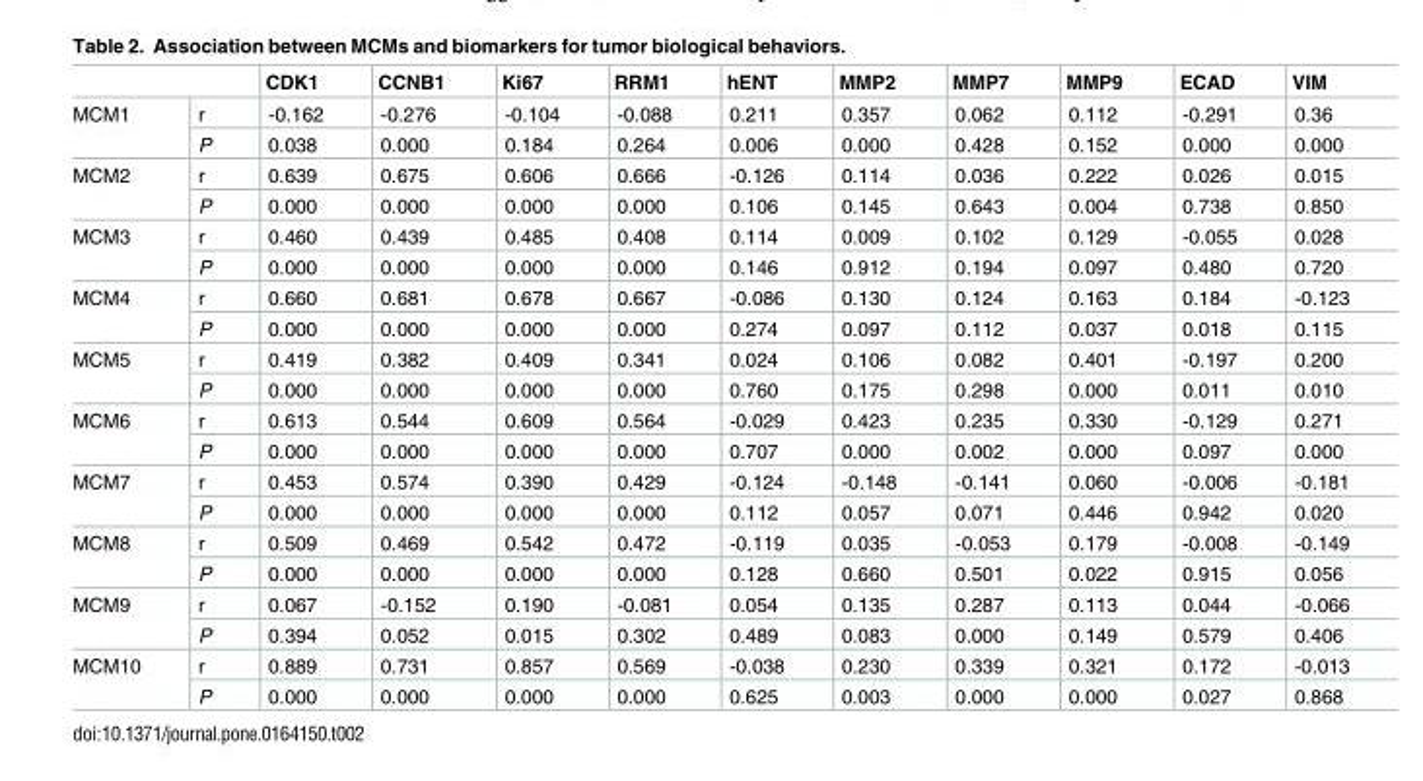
<table><thead><tr><td></td><td></td><td>CDK1</td><td>CCNB1</td><td>Ki67</td><td>RRM1</td><td>hENT</td><td>MMP2</td><td>MMP7</td><td>MMP9</td><td>ECAD</td><td>VIM</td></tr></thead><tbody><tr><td rowspan="2">MCM1</td><td>r</td><td>-0.162</td><td>-0.276</td><td>-0.104</td><td>-0.088</td><td>0.211</td><td>0.357</td><td>0.062</td><td>0.112</td><td>-0.291</td><td>0.36</td></tr><tr><td>P</td><td>0.038</td><td>0.000</td><td>0.184</td><td>0.264</td><td>0.006</td><td>0.000</td><td>0.428</td><td>0.152</td><td>0.000</td><td>0.000</td></tr><tr><td rowspan="2">MCM2</td><td>r</td><td>0.639</td><td>0.675</td><td>0.606</td><td>0.666</td><td>-0.126</td><td>0.114</td><td>0.036</td><td>0.222</td><td>0.026</td><td>0.015</td></tr><tr><td>P</td><td>0.000</td><td>0.000</td><td>0.000</td><td>0.000</td><td>0.106</td><td>0.145</td><td>0.643</td><td>0.004</td><td>0.738</td><td>0.850</td></tr><tr><td rowspan="2">MCM3</td><td>r</td><td>0.460</td><td>0.439</td><td>0.485</td><td>0.408</td><td>0.114</td><td>0.009</td><td>0.102</td><td>0.129</td><td>-0.055</td><td>0.028</td></tr><tr><td>P</td><td>0.000</td><td>0.000</td><td>0.000</td><td>0.000</td><td>0.146</td><td>0.912</td><td>0.194</td><td>0.097</td><td>0.480</td><td>0.720</td></tr><tr><td rowspan="2">MCM4</td><td>r</td><td>0.660</td><td>0.681</td><td>0.678</td><td>0.667</td><td>-0.086</td><td>0.130</td><td>0.124</td><td>0.163</td><td>0.184</td><td>-0.123</td></tr><tr><td>P</td><td>0.000</td><td>0.000</td><td>0.000</td><td>0.000</td><td>0.274</td><td>0.097</td><td>0.112</td><td>0.037</td><td>0.018</td><td>0.115</td></tr><tr><td rowspan="2">MCM5</td><td>r</td><td>0.419</td><td>0.382</td><td>0.409</td><td>0.341</td><td>0.024</td><td>0.106</td><td>0.082</td><td>0.401</td><td>-0.197</td><td>0.200</td></tr><tr><td>P</td><td>0.000</td><td>0.000</td><td>0.000</td><td>0.000</td><td>0.760</td><td>0.175</td><td>0.298</td><td>0.000</td><td>0.011</td><td>0.010</td></tr><tr><td rowspan="2">MCM6</td><td>r</td><td>0.613</td><td>0.544</td><td>0.609</td><td>0.564</td><td>-0.029</td><td>0.423</td><td>0.235</td><td>0.330</td><td>-0.129</td><td>0.271</td></tr><tr><td>P</td><td>0.000</td><td>0.000</td><td>0.000</td><td>0.000</td><td>0.707</td><td>0.000</td><td>0.002</td><td>0.000</td><td>0.097</td><td>0.000</td></tr><tr><td rowspan="2">MCM7</td><td>r</td><td>0.453</td><td>0.574</td><td>0.390</td><td>0.429</td><td>-0.124</td><td>-0.148</td><td>-0.141</td><td>0.060</td><td>-0.006</td><td>-0.181</td></tr><tr><td>P</td><td>0.000</td><td>0.000</td><td>0.000</td><td>0.000</td><td>0.112</td><td>0.057</td><td>0.071</td><td>0.446</td><td>0.942</td><td>0.020</td></tr><tr><td rowspan="2">MCM8</td><td>r</td><td>0.509</td><td>0.469</td><td>0.542</td><td>0.472</td><td>-0.119</td><td>0.035</td><td>-0.053</td><td>0.179</td><td>-0.008</td><td>-0.149</td></tr><tr><td>P</td><td>0.000</td><td>0.000</td><td>0.000</td><td>0.000</td><td>0.128</td><td>0.660</td><td>0.501</td><td>0.022</td><td>0.915</td><td>0.056</td></tr><tr><td rowspan="2">MCM9</td><td>r</td><td>0.067</td><td>-0.152</td><td>0.190</td><td>-0.081</td><td>0.054</td><td>0.135</td><td>0.287</td><td>0.113</td><td>0.044</td><td>-0.066</td></tr><tr><td>P</td><td>0.394</td><td>0.052</td><td>0.015</td><td>0.302</td><td>0.489</td><td>0.083</td><td>0.000</td><td>0.149</td><td>0.579</td><td>0.406</td></tr><tr><td rowspan="2">MCM10</td><td>r</td><td>0.889</td><td>0.731</td><td>0.857</td><td>0.569</td><td>-0.038</td><td>0.230</td><td>0.339</td><td>0.321</td><td>0.172</td><td>-0.013</td></tr><tr><td>P</td><td>0.000</td><td>0.000</td><td>0.000</td><td>0.000</td><td>0.625</td><td>0.003</td><td>0.000</td><td>0.000</td><td>0.027</td><td>0.868</td></tr></tbody></table>